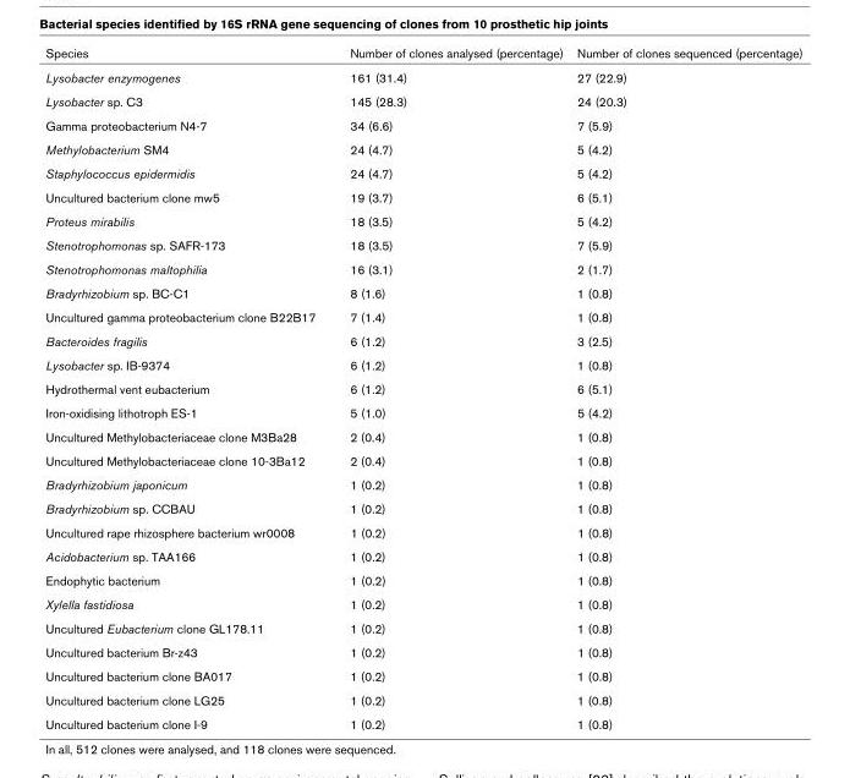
<table><thead><tr><td>Species</td><td>Number of clones analysed (percentage)</td><td>Number of clones sequenced (percentage)</td></tr></thead><tbody><tr><td>Lysobacter enzymogenes</td><td>161 (31.4)</td><td>27 (22.9)</td></tr><tr><td>Lysobacter sp. C3</td><td>145 (28.3)</td><td>24 (20.3)</td></tr><tr><td>Gamma proteobacterium N4-7</td><td>34 (6.6)</td><td>7 (5.9)</td></tr><tr><td>Methylobacterium SM4</td><td>24 (4.7)</td><td>5 (4.2)</td></tr><tr><td>Staphylococcus epidermidis</td><td>24 (4.7)</td><td>5 (4.2)</td></tr><tr><td>Uncultured bacterium clone mw5</td><td>19 (3.7)</td><td>6 (5.1)</td></tr><tr><td>Proteus mirabilis</td><td>18 (3.5)</td><td>5 (4.2)</td></tr><tr><td>Stenotrophomonas sp. SAFR-173</td><td>18 (3.5)</td><td>7 (5.9)</td></tr><tr><td>Stenotrophomonas maltophilia</td><td>16 (3.1)</td><td>2 (1.7)</td></tr><tr><td>Bradyrhizobium sp. BC-C1</td><td>8 (1.6)</td><td>1 (0.8)</td></tr><tr><td>Uncultured gamma proteobacterium clone B22B17</td><td>7 (1.4)</td><td>1 (0.8)</td></tr><tr><td>Bacteroides fragilis</td><td>6 (1.2)</td><td>3 (2.5)</td></tr><tr><td>Lysobacter sp. IB-9374</td><td>6 (1.2)</td><td>1 (0.8)</td></tr><tr><td>Hydrothermal vent eubacterium</td><td>6 (1.2)</td><td>6 (5.1)</td></tr><tr><td>Iron-oxidising lithotroph ES-1</td><td>5 (1.0)</td><td>5 (4.2)</td></tr><tr><td>Uncultured Methylobacteriaceae clone M3Ba28</td><td>2 (0.4)</td><td>1 (0.8)</td></tr><tr><td>Uncultured Methylobacteriaceae clone 10-3Ba12</td><td>2 (0.4)</td><td>1 (0.8)</td></tr><tr><td>Bradyrhizobium japonicum</td><td>1 (0.2)</td><td>1 (0.8)</td></tr><tr><td>Bradyrhizobium sp. CCBAU</td><td>1 (0.2)</td><td>1 (0.8)</td></tr><tr><td>Uncultured rape rhizosphere bacterium wr0008</td><td>1 (0.2)</td><td>1 (0.8)</td></tr><tr><td>Acidobacterium sp. TAA166</td><td>1 (0.2)</td><td>1 (0.8)</td></tr><tr><td>Endophytic bacterium</td><td>1 (0.2)</td><td>1 (0.8)</td></tr><tr><td>Xylella fastidiosa</td><td>1 (0.2)</td><td>1 (0.8)</td></tr><tr><td>Uncultured Eubacterium clone GL178.11</td><td>1 (0.2)</td><td>1 (0.8)</td></tr><tr><td>Uncultured bacterium Br-z43</td><td>1 (0.2)</td><td>1 (0.8)</td></tr><tr><td>Uncultured bacterium clone BA017</td><td>1 (0.2)</td><td>1 (0.8)</td></tr><tr><td>Uncultured bacterium clone LG25</td><td>1 (0.2)</td><td>1 (0.8)</td></tr><tr><td>Uncultured bacterium clone I-9</td><td>1 (0.2)</td><td>1 (0.8)</td></tr></tbody></table>